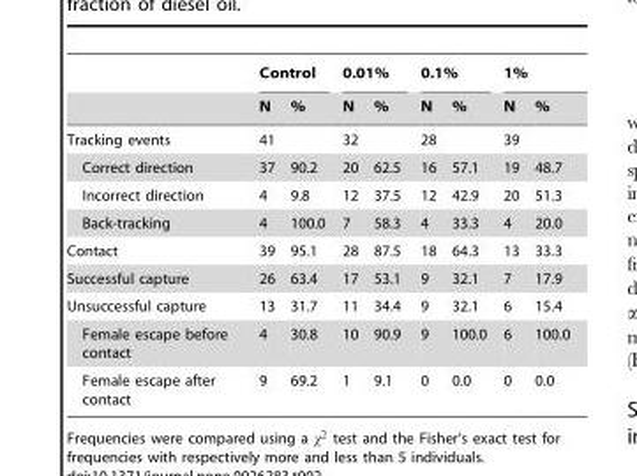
<table><thead><tr><td rowspan="2"></td><td colspan="2">Control</td><td colspan="2">0.01%</td><td colspan="2">0.1%</td><td colspan="2">1%</td></tr><tr><td>N</td><td>%</td><td>N</td><td>%</td><td>N</td><td>%</td><td>N</td><td>%</td></tr></thead><tbody><tr><td>Tracking events</td><td>41</td><td></td><td>32</td><td></td><td>28</td><td></td><td>39</td><td></td></tr><tr><td>Correct direction</td><td>37</td><td>90.2</td><td>20</td><td>62.5</td><td>16</td><td>57.1</td><td>19</td><td>48.7</td></tr><tr><td>Incorrect direction</td><td>4</td><td>9.8</td><td>12</td><td>37.5</td><td>12</td><td>42.9</td><td>20</td><td>51.3</td></tr><tr><td>Back-tracking</td><td>4</td><td>100.0</td><td>7</td><td>58.3</td><td>4</td><td>33.3</td><td>4</td><td>20.0</td></tr><tr><td>Contact</td><td>39</td><td>95.1</td><td>28</td><td>87.5</td><td>18</td><td>64.3</td><td>13</td><td>33.3</td></tr><tr><td>Successful capture</td><td>26</td><td>63.4</td><td>17</td><td>53.1</td><td>9</td><td>32.1</td><td>7</td><td>17.9</td></tr><tr><td>Unsuccessful capture</td><td>13</td><td>31.7</td><td>11</td><td>34.4</td><td>9</td><td>32.1</td><td>6</td><td>15.4</td></tr><tr><td>Female escape before contact</td><td>4</td><td>30.8</td><td>10</td><td>90.9</td><td>9</td><td>100.0</td><td>6</td><td>100.0</td></tr><tr><td>Female escape after contact</td><td>9</td><td>69.2</td><td>1</td><td>9.1</td><td>0</td><td>0.0</td><td>0</td><td>0.0</td></tr></tbody></table>